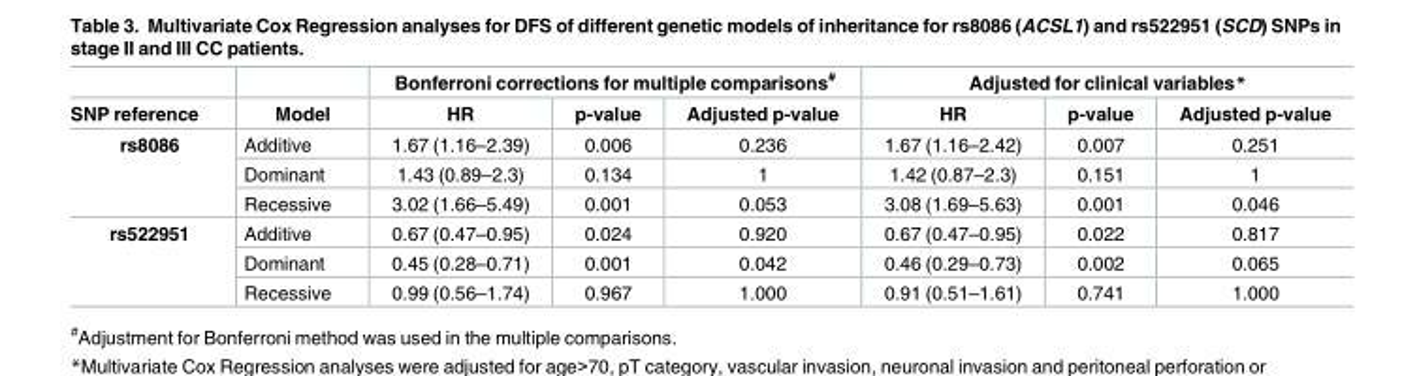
<table><thead><tr><td rowspan="2">SNP reference</td><td rowspan="2">Model</td><td colspan="3">Bonferroni corrections for multiple comparisons<sup>#</sup></td><td colspan="3">Adjusted for clinical variables*</td></tr><tr><td>HR</td><td>p-value</td><td>Adjusted p-value</td><td>HR</td><td>p-value</td><td>Adjusted p-value</td></tr></thead><tbody><tr><td rowspan="3">rs8086</td><td>Additive</td><td>1.67 (1.16–2.39)</td><td>0.006</td><td>0.236</td><td>1.67 (1.16–2.42)</td><td>0.007</td><td>0.251</td></tr><tr><td>Dominant</td><td>1.43 (0.89–2.3)</td><td>0.134</td><td>1</td><td>1.42 (0.87–2.3)</td><td>0.151</td><td>1</td></tr><tr><td>Recessive</td><td>3.02 (1.66–5.49)</td><td>0.001</td><td>0.053</td><td>3.08 (1.69–5.63)</td><td>0.001</td><td>0.046</td></tr><tr><td rowspan="3">rs522951</td><td>Additive</td><td>0.67 (0.47–0.95)</td><td>0.024</td><td>0.920</td><td>0.67 (0.47–0.95)</td><td>0.022</td><td>0.817</td></tr><tr><td>Dominant</td><td>0.45 (0.28–0.71)</td><td>0.001</td><td>0.042</td><td>0.46 (0.29–0.73)</td><td>0.002</td><td>0.065</td></tr><tr><td>Recessive</td><td>0.99 (0.56–1.74)</td><td>0.967</td><td>1.000</td><td>0.91 (0.51–1.61)</td><td>0.741</td><td>1.000</td></tr></tbody></table>